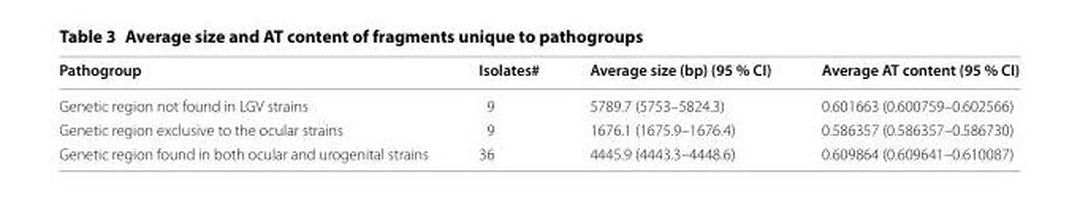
<table><thead><tr><td>Pathogroup</td><td>Isolates#</td><td>Average size (bp) (95 % CI)</td><td>Average AT content (95 % CI)</td></tr></thead><tbody><tr><td>Genetic region not found in LGV strains</td><td>9</td><td>5789.7 (5753–5824.3)</td><td>0.601663 (0.600759–0.602566)</td></tr><tr><td>Genetic region exclusive to the ocular strains</td><td>9</td><td>1676.1 (1675.9–1676.4)</td><td>0.586357 (0.586357–0.586730)</td></tr><tr><td>Genetic region found in both ocular and urogenital strains</td><td>36</td><td>4445.9 (4443.3–4448.6)</td><td>0.609864 (0.609641–0.610087)</td></tr></tbody></table>